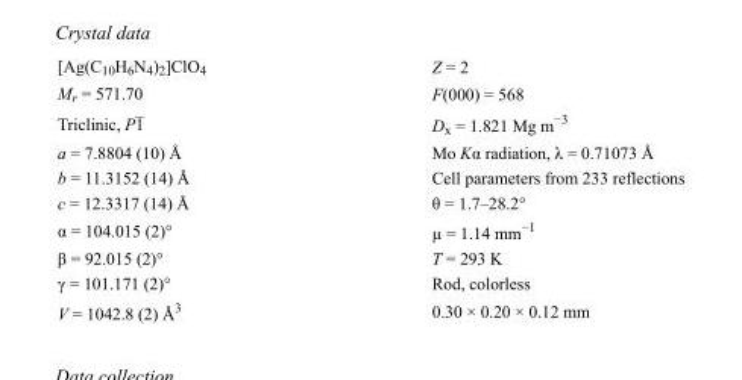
<table><tbody><tr><td>[Ag(C<sub>10</sub>H<sub>6</sub>N<sub>4</sub>)<sub>2</sub>]ClO<sub>4</sub></td><td>Z = 2</td></tr><tr><td>M<sub>r</sub> = 571.70</td><td>F(000) = 568</td></tr><tr><td>Triclinic, P1</td><td>D<sub>x</sub> = 1.821 Mg m<sup>−3</sup></td></tr><tr><td>a = 7.8804 (10) Å</td><td>Mo Kα radiation, λ = 0.71073 Å</td></tr><tr><td>b = 11.3152 (14) Å</td><td>Cell parameters from 233 reflections</td></tr><tr><td>c = 12.3317 (14) Å</td><td>θ = 1.7–28.2°</td></tr><tr><td>α = 104.015 (2)°</td><td>µ = 1.14 mm<sup>−1</sup></td></tr><tr><td>β = 92.015 (2)°</td><td>T = 293 K</td></tr><tr><td>γ = 101.171 (2)°</td><td>Rod, colorless</td></tr><tr><td>V = 1042.8 (2) Å<sup>3</sup></td><td>0.30 × 0.20 × 0.12 mm</td></tr></tbody></table>